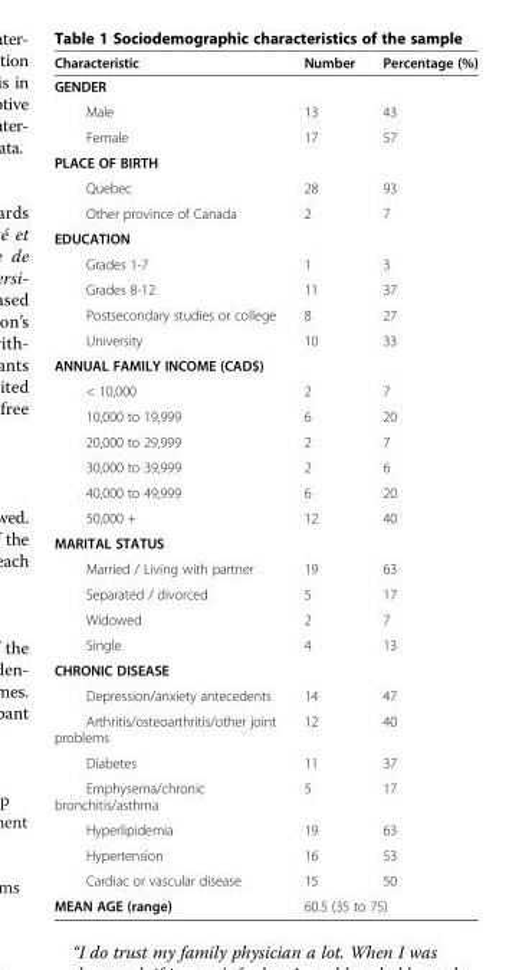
<table><thead><tr><td>Characteristic</td><td>Number</td><td>Percentage (%)</td></tr></thead><tbody><tr><td colspan="3">GENDER</td></tr><tr><td>Male</td><td>13</td><td>43</td></tr><tr><td>Female</td><td>17</td><td>57</td></tr><tr><td colspan="3">PLACE OF BIRTH</td></tr><tr><td>Quebec</td><td>28</td><td>93</td></tr><tr><td>Other province of Canada</td><td>2</td><td>7</td></tr><tr><td colspan="3">EDUCATION</td></tr><tr><td>Grades 1-7</td><td>1</td><td>3</td></tr><tr><td>Grades 8-12</td><td>11</td><td>37</td></tr><tr><td>Postsecondary studies or college</td><td>8</td><td>27</td></tr><tr><td>University</td><td>10</td><td>33</td></tr><tr><td colspan="3">ANNUAL FAMILY INCOME (CAD$)</td></tr><tr><td>&lt; 10,000</td><td>2</td><td>7</td></tr><tr><td>10,000 to 19,999</td><td>6</td><td>20</td></tr><tr><td>20,000 to 29,999</td><td>2</td><td>7</td></tr><tr><td>30,000 to 39,999</td><td>2</td><td>6</td></tr><tr><td>40,000 to 49,999</td><td>6</td><td>20</td></tr><tr><td>50,000 +</td><td>12</td><td>40</td></tr><tr><td colspan="3">MARITAL STATUS</td></tr><tr><td>Married / Living with partner</td><td>19</td><td>63</td></tr><tr><td>Separated / divorced</td><td>5</td><td>17</td></tr><tr><td>Widowed</td><td>2</td><td>7</td></tr><tr><td>Single</td><td>4</td><td>13</td></tr><tr><td colspan="3">CHRONIC DISEASE</td></tr><tr><td>Depression/anxiety antecedents</td><td>14</td><td>47</td></tr><tr><td>Arthritis/osteoarthritis/other joint problems</td><td>12</td><td>40</td></tr><tr><td>Diabetes</td><td>11</td><td>37</td></tr><tr><td>Emphysema/chronic bronchitis/asthma</td><td>5</td><td>17</td></tr><tr><td>Hyperlipidemia</td><td>19</td><td>63</td></tr><tr><td>Hypertension</td><td>16</td><td>53</td></tr><tr><td>Cardiac or vascular disease</td><td>15</td><td>50</td></tr><tr><td>MEAN AGE (range)</td><td colspan="2">60.5 (35 to 75)</td></tr></tbody></table>